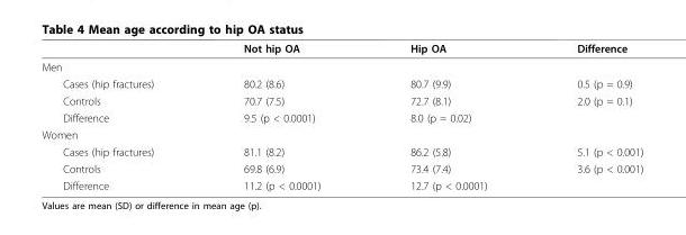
<table><thead><tr><td></td><td>Not hip OA</td><td>Hip OA</td><td>Difference</td></tr></thead><tbody><tr><td colspan="4">Men</td></tr><tr><td>Cases (hip fractures)</td><td>80.2 (8.6)</td><td>80.7 (9.9)</td><td>0.5 (p = 0.9)</td></tr><tr><td>Controls</td><td>70.7 (7.5)</td><td>72.7 (8.1)</td><td>2.0 (p = 0.1)</td></tr><tr><td>Difference</td><td>9.5 (p &lt; 0.0001)</td><td>8.0 (p = 0.02)</td><td></td></tr><tr><td colspan="4">Women</td></tr><tr><td>Cases (hip fractures)</td><td>81.1 (8.2)</td><td>86.2 (5.8)</td><td>5.1 (p &lt; 0.001)</td></tr><tr><td>Controls</td><td>69.8 (6.9)</td><td>73.4 (7.4)</td><td>3.6 (p &lt; 0.001)</td></tr><tr><td>Difference</td><td>11.2 (p &lt; 0.0001)</td><td>12.7 (p &lt; 0.0001)</td><td></td></tr></tbody></table>